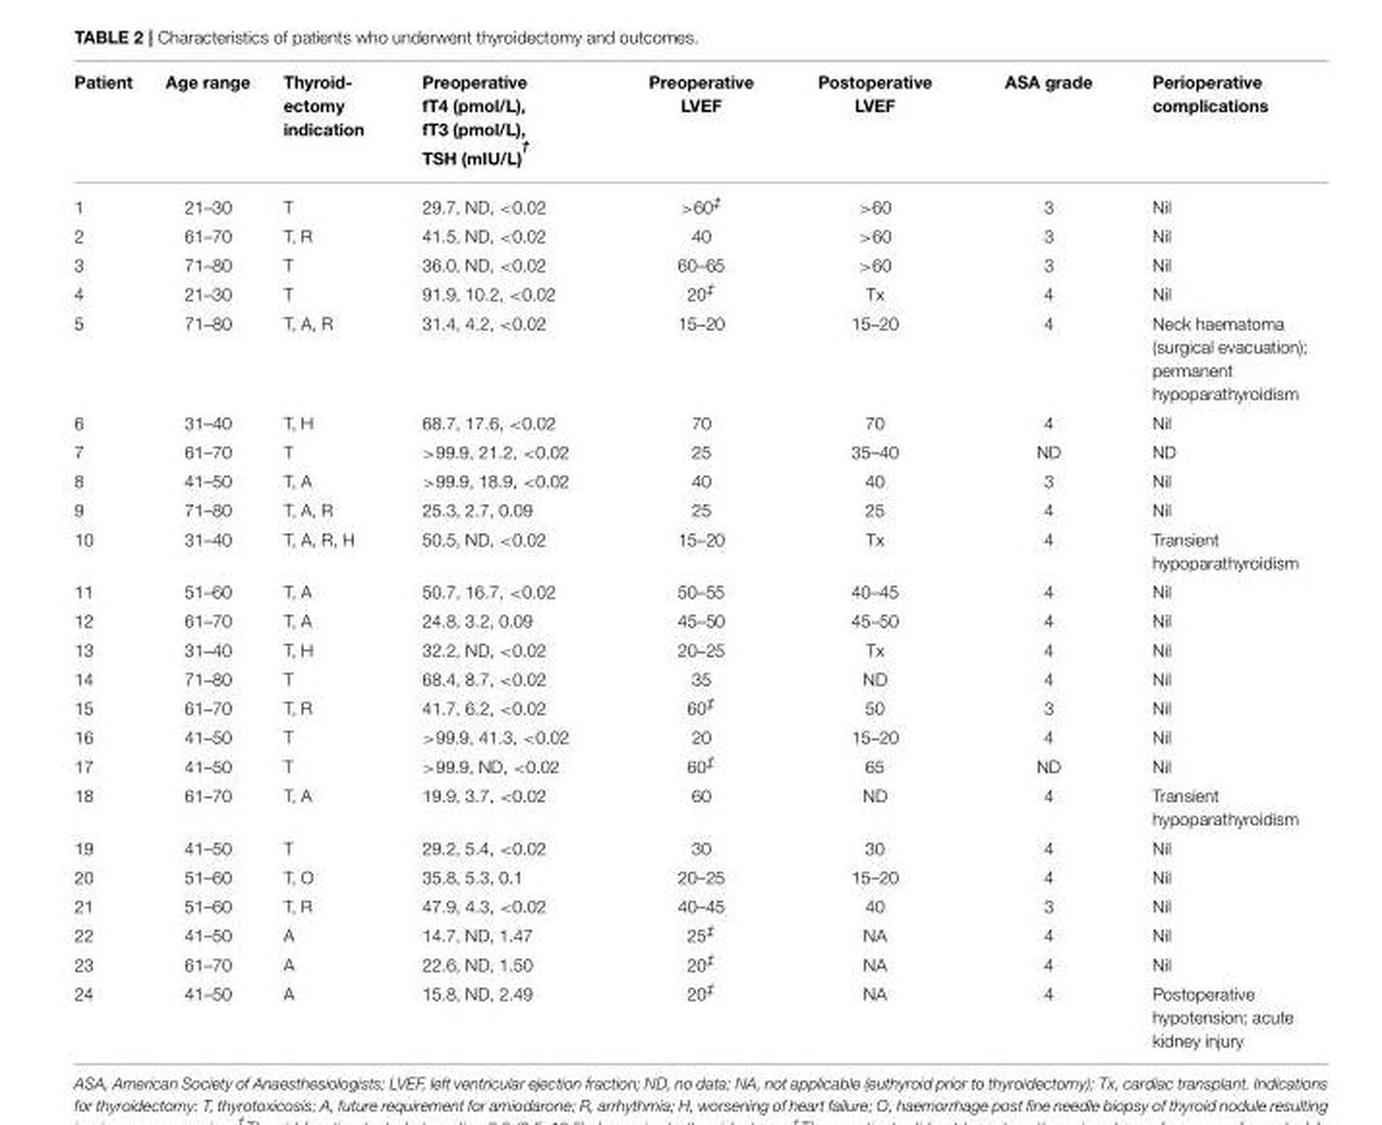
<table><thead><tr><td>Patient</td><td>Age range</td><td>Thyroid- ectomy indication</td><td>Preoperative fT4 (pmol/L), fT3 (pmol/L), TSH (mIU/L) <sup>†</sup></td><td>Preoperative LVEF</td><td>Postoperative LVEF</td><td>ASA grade</td><td>Perioperative complications</td></tr></thead><tbody><tr><td>1</td><td>21–30</td><td>T</td><td>29.7, ND, &lt;0.02</td><td>&gt;60<sup>‡</sup></td><td>&gt;60</td><td>3</td><td>Nil</td></tr><tr><td>2</td><td>61–70</td><td>T, R</td><td>41.5, ND, &lt;0.02</td><td>40</td><td>&gt;60</td><td>3</td><td>Nil</td></tr><tr><td>3</td><td>71–80</td><td>T</td><td>36.0, ND, &lt;0.02</td><td>60–65</td><td>&gt;60</td><td>3</td><td>Nil</td></tr><tr><td>4</td><td>21–30</td><td>T</td><td>91.9, 10.2, &lt;0.02</td><td>20<sup>‡</sup></td><td>Tx</td><td>4</td><td>Nil</td></tr><tr><td>5</td><td>71–80</td><td>T, A, R</td><td>31.4, 4.2, &lt;0.02</td><td>15–20</td><td>15–20</td><td>4</td><td>Neck haematoma (surgical evacuation); permanent hypoparathyroidism</td></tr><tr><td>6</td><td>31–40</td><td>T, H</td><td>68.7, 17.6, &lt;0.02</td><td>70</td><td>70</td><td>4</td><td>Nil</td></tr><tr><td>7</td><td>61–70</td><td>T</td><td>&gt;99.9, 21.2, &lt;0.02</td><td>25</td><td>35–40</td><td>ND</td><td>ND</td></tr><tr><td>8</td><td>41–50</td><td>T, A</td><td>&gt;99.9, 18.9, &lt;0.02</td><td>40</td><td>40</td><td>3</td><td>Nil</td></tr><tr><td>9</td><td>71–80</td><td>T, A, R</td><td>25.3, 2.7, 0.09</td><td>25</td><td>25</td><td>4</td><td>Nil</td></tr><tr><td>10</td><td>31–40</td><td>T, A, R, H</td><td>50.5, ND, &lt;0.02</td><td>15–20</td><td>Tx</td><td>4</td><td>Transient hypoparathyroidism</td></tr><tr><td>11</td><td>51–60</td><td>T, A</td><td>50.7, 16.7, &lt;0.02</td><td>50–55</td><td>40–45</td><td>4</td><td>Nil</td></tr><tr><td>12</td><td>61–70</td><td>T, A</td><td>24.8, 3.2, 0.09</td><td>45–50</td><td>45–50</td><td>4</td><td>Nil</td></tr><tr><td>13</td><td>31–40</td><td>T, H</td><td>32.2, ND, &lt;0.02</td><td>20–25</td><td>Tx</td><td>4</td><td>Nil</td></tr><tr><td>14</td><td>71–80</td><td>T</td><td>68.4, 8.7, &lt;0.02</td><td>35</td><td>ND</td><td>4</td><td>Nil</td></tr><tr><td>15</td><td>61–70</td><td>T, R</td><td>41.7, 6.2, &lt;0.02</td><td>60<sup>‡</sup></td><td>50</td><td>3</td><td>Nil</td></tr><tr><td>16</td><td>41–50</td><td>T</td><td>&gt;99.9, 41.3, &lt;0.02</td><td>20</td><td>15–20</td><td>4</td><td>Nil</td></tr><tr><td>17</td><td>41–50</td><td>T</td><td>&gt;99.9, ND, &lt;0.02</td><td>60<sup>‡</sup></td><td>65</td><td>ND</td><td>Nil</td></tr><tr><td>18</td><td>61–70</td><td>T, A</td><td>19.9, 3.7, &lt;0.02</td><td>60</td><td>ND</td><td>4</td><td>Transient hypoparathyroidism</td></tr><tr><td>19</td><td>41–50</td><td>T</td><td>29.2, 5.4, &lt;0.02</td><td>30</td><td>30</td><td>4</td><td>Nil</td></tr><tr><td>20</td><td>51–60</td><td>T, O</td><td>35.8, 5.3, 0.1</td><td>20–25</td><td>15–20</td><td>4</td><td>Nil</td></tr><tr><td>21</td><td>51–60</td><td>T, R</td><td>47.9, 4.3, &lt;0.02</td><td>40–45</td><td>40</td><td>3</td><td>Nil</td></tr><tr><td>22</td><td>41–50</td><td>A</td><td>14.7, ND, 1.47</td><td>25<sup>‡</sup></td><td>NA</td><td>4</td><td>Nil</td></tr><tr><td>23</td><td>61–70</td><td>A</td><td>22.6, ND, 1.50</td><td>20<sup>‡</sup></td><td>NA</td><td>4</td><td>Nil</td></tr><tr><td>24</td><td>41–50</td><td>A</td><td>15.8, ND, 2.49</td><td>20<sup>‡</sup></td><td>NA</td><td>4</td><td>Postoperative hypotension; acute kidney injury</td></tr></tbody></table>